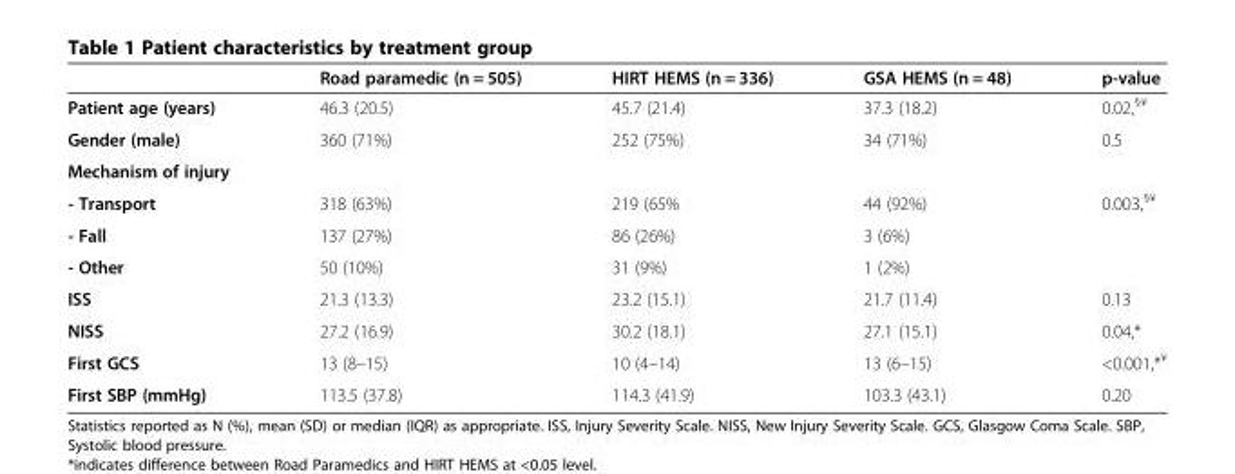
<table><thead><tr><td></td><td>Road paramedic (n = 505)</td><td>HIRT HEMS (n = 336)</td><td>GSA HEMS (n = 48)</td><td>p-value</td></tr></thead><tbody><tr><td>Patient age (years)</td><td>46.3 (20.5)</td><td>45.7 (21.4)</td><td>37.3 (18.2)</td><td>0.02,<sup>§¥</sup></td></tr><tr><td>Gender (male)</td><td>360 (71%)</td><td>252 (75%)</td><td>34 (71%)</td><td>0.5</td></tr><tr><td colspan="5">Mechanism of injury</td></tr><tr><td>- Transport</td><td>318 (63%)</td><td>219 (65%</td><td>44 (92%)</td><td>0.003,<sup>§¥</sup></td></tr><tr><td>- Fall</td><td>137 (27%)</td><td>86 (26%)</td><td>3 (6%)</td><td></td></tr><tr><td>- Other</td><td>50 (10%)</td><td>31 (9%)</td><td>1 (2%)</td><td></td></tr><tr><td>ISS</td><td>21.3 (13.3)</td><td>23.2 (15.1)</td><td>21.7 (11.4)</td><td>0.13</td></tr><tr><td>NISS</td><td>27.2 (16.9)</td><td>30.2 (18.1)</td><td>27.1 (15.1)</td><td>0.04,*</td></tr><tr><td>First GCS</td><td>13 (8–15)</td><td>10 (4–14)</td><td>13 (6–15)</td><td>&lt;0.001,*<sup>¥</sup></td></tr><tr><td>First SBP (mmHg)</td><td>113.5 (37.8)</td><td>114.3 (41.9)</td><td>103.3 (43.1)</td><td>0.20</td></tr></tbody></table>